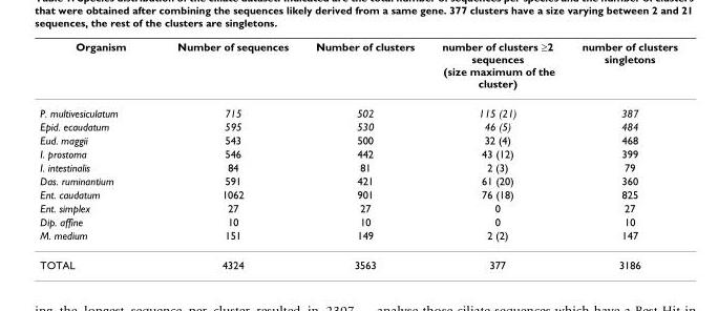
<table><thead><tr><td>Organism</td><td>Number of sequences</td><td>Number of clusters</td><td>number of clusters ≥2 sequences (size maximum of the cluster)</td><td>number of clusters singletons</td></tr></thead><tbody><tr><td>P. multivesiculatum</td><td>715</td><td>502</td><td>115 (21)</td><td>387</td></tr><tr><td>Epid. ecaudatum</td><td>595</td><td>530</td><td>46 (5)</td><td>484</td></tr><tr><td>Eud. maggii</td><td>543</td><td>500</td><td>32 (4)</td><td>468</td></tr><tr><td>I. prostoma</td><td>546</td><td>442</td><td>43 (12)</td><td>399</td></tr><tr><td>I. intestinalis</td><td>84</td><td>81</td><td>2 (3)</td><td>79</td></tr><tr><td>Das. ruminantium</td><td>591</td><td>421</td><td>61 (20)</td><td>360</td></tr><tr><td>Ent. caudatum</td><td>1062</td><td>901</td><td>76 (18)</td><td>825</td></tr><tr><td>Ent. simplex</td><td>27</td><td>27</td><td>0</td><td>27</td></tr><tr><td>Dip. affine</td><td>10</td><td>10</td><td>0</td><td>10</td></tr><tr><td>M. medium</td><td>151</td><td>149</td><td>2 (2)</td><td>147</td></tr><tr><td>TOTAL</td><td>4324</td><td>3563</td><td>377</td><td>3186</td></tr></tbody></table>